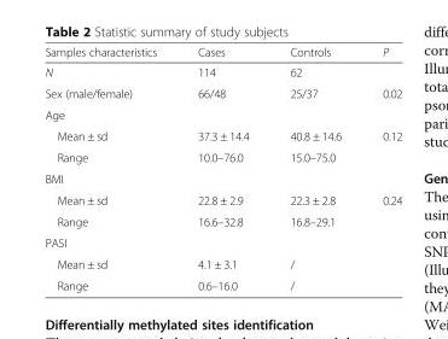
<table><thead><tr><td>Samples characteristics</td><td>Cases</td><td>Controls</td><td>P</td></tr></thead><tbody><tr><td>N</td><td>114</td><td>62</td><td></td></tr><tr><td>Sex (male/female)</td><td>66/48</td><td>25/37</td><td>0.02</td></tr><tr><td colspan="4">Age</td></tr><tr><td>Mean ± sd</td><td>37.3 ± 14.4</td><td>40.8 ± 14.6</td><td>0.12</td></tr><tr><td>Range</td><td>10.0–76.0</td><td>15.0–75.0</td><td></td></tr><tr><td colspan="4">BMI</td></tr><tr><td>Mean ± sd</td><td>22.8 ± 2.9</td><td>22.3 ± 2.8</td><td>0.24</td></tr><tr><td>Range</td><td>16.6–32.8</td><td>16.8–29.1</td><td></td></tr><tr><td colspan="4">PASI</td></tr><tr><td>Mean ± sd</td><td>4.1 ± 3.1</td><td>/</td><td></td></tr><tr><td>Range</td><td>0.6–16.0</td><td>/</td><td></td></tr></tbody></table>